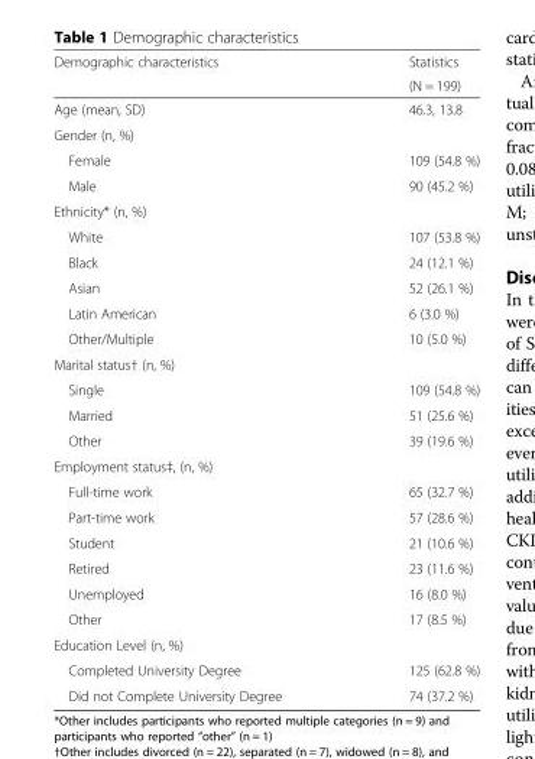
<table><thead><tr><td rowspan="2">Demographic characteristics</td><td rowspan="2">Statistics (N = 199)</td></tr><tr></tr></thead><tbody><tr><td>Age (mean, SD)</td><td>46.3, 13.8</td></tr><tr><td colspan="2">Gender (n, %)</td></tr><tr><td>Female</td><td>109 (54.8 %)</td></tr><tr><td>Male</td><td>90 (45.2 %)</td></tr><tr><td colspan="2">Ethnicity* (n, %)</td></tr><tr><td>White</td><td>107 (53.8 %)</td></tr><tr><td>Black</td><td>24 (12.1 %)</td></tr><tr><td>Asian</td><td>52 (26.1 %)</td></tr><tr><td>Latin American</td><td>6 (3.0 %)</td></tr><tr><td>Other/Multiple</td><td>10 (5.0 %)</td></tr><tr><td colspan="2">Marital status† (n, %)</td></tr><tr><td>Single</td><td>109 (54.8 %)</td></tr><tr><td>Married</td><td>51 (25.6 %)</td></tr><tr><td>Other</td><td>39 (19.6 %)</td></tr><tr><td colspan="2">Employment status‡, (n, %)</td></tr><tr><td>Full-time work</td><td>65 (32.7 %)</td></tr><tr><td>Part-time work</td><td>57 (28.6 %)</td></tr><tr><td>Student</td><td>21 (10.6 %)</td></tr><tr><td>Retired</td><td>23 (11.6 %)</td></tr><tr><td>Unemployed</td><td>16 (8.0 %)</td></tr><tr><td>Other</td><td>17 (8.5 %)</td></tr><tr><td colspan="2">Education Level (n, %)</td></tr><tr><td>Completed University Degree</td><td>125 (62.8 %)</td></tr><tr><td>Did not Complete University Degree</td><td>74 (37.2 %)</td></tr></tbody></table>